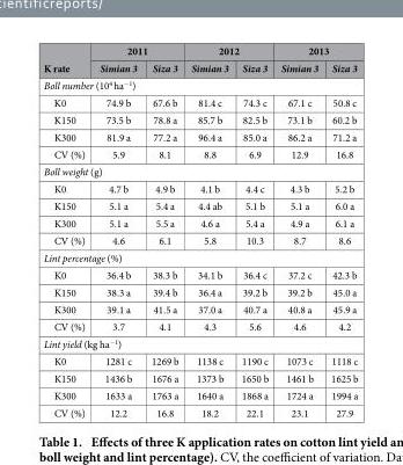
<table><thead><tr><td rowspan="2">K rate</td><td colspan="2">2011</td><td colspan="2">2012</td><td colspan="2">2013</td></tr><tr><td>Simian 3</td><td>Siza 3</td><td>Simian 3</td><td>Siza 3</td><td>Simian 3</td><td>Siza 3</td></tr></thead><tbody><tr><td colspan="7">Boll number (10<sup>4</sup> ha<sup>−1</sup>)</td></tr><tr><td>K0</td><td>74.9 b</td><td>67.6 b</td><td>81.4 c</td><td>74.3 c</td><td>67.1 c</td><td>50.8 c</td></tr><tr><td>K150</td><td>73.5 b</td><td>78.8 a</td><td>85.7 b</td><td>82.5 b</td><td>73.1 b</td><td>60.2 b</td></tr><tr><td>K300</td><td>81.9 a</td><td>77.2 a</td><td>96.4 a</td><td>85.0 a</td><td>86.2 a</td><td>71.2 a</td></tr><tr><td>CV (%)</td><td>5.9</td><td>8.1</td><td>8.8</td><td>6.9</td><td>12.9</td><td>16.8</td></tr><tr><td colspan="7">Boll weight (g)</td></tr><tr><td>K0</td><td>4.7 b</td><td>4.9 b</td><td>4.1 b</td><td>4.4 c</td><td>4.3 b</td><td>5.2 b</td></tr><tr><td>K150</td><td>5.1 a</td><td>5.4 a</td><td>4.4 ab</td><td>5.1 b</td><td>5.1 a</td><td>6.0 a</td></tr><tr><td>K300</td><td>5.1 a</td><td>5.5 a</td><td>4.6 a</td><td>5.4 a</td><td>4.9 a</td><td>6.1 a</td></tr><tr><td>CV (%)</td><td>4.6</td><td>6.1</td><td>5.8</td><td>10.3</td><td>8.7</td><td>8.6</td></tr><tr><td colspan="7">Lint percentage (%)</td></tr><tr><td>K0</td><td>36.4 b</td><td>38.3 b</td><td>34.1 b</td><td>36.4 c</td><td>37.2 c</td><td>42.3 b</td></tr><tr><td>K150</td><td>38.3 a</td><td>39.4 b</td><td>36.4 a</td><td>39.2 b</td><td>39.2 b</td><td>45.0 a</td></tr><tr><td>K300</td><td>39.1 a</td><td>41.5 a</td><td>37.0 a</td><td>40.7 a</td><td>40.8 a</td><td>45.9 a</td></tr><tr><td>CV (%)</td><td>3.7</td><td>4.1</td><td>4.3</td><td>5.6</td><td>4.6</td><td>4.2</td></tr><tr><td colspan="7">Lint yield (kg ha<sup>−1</sup>)</td></tr><tr><td>K0</td><td>1281 c</td><td>1269 b</td><td>1138 c</td><td>1190 c</td><td>1073 c</td><td>1118 c</td></tr><tr><td>K150</td><td>1436 b</td><td>1676 a</td><td>1373 b</td><td>1650 b</td><td>1461 b</td><td>1625 b</td></tr><tr><td>K300</td><td>1633 a</td><td>1763 a</td><td>1640 a</td><td>1868 a</td><td>1724 a</td><td>1994 a</td></tr><tr><td>CV (%)</td><td>12.2</td><td>16.8</td><td>18.2</td><td>22.1</td><td>23.1</td><td>27.9</td></tr></tbody></table>